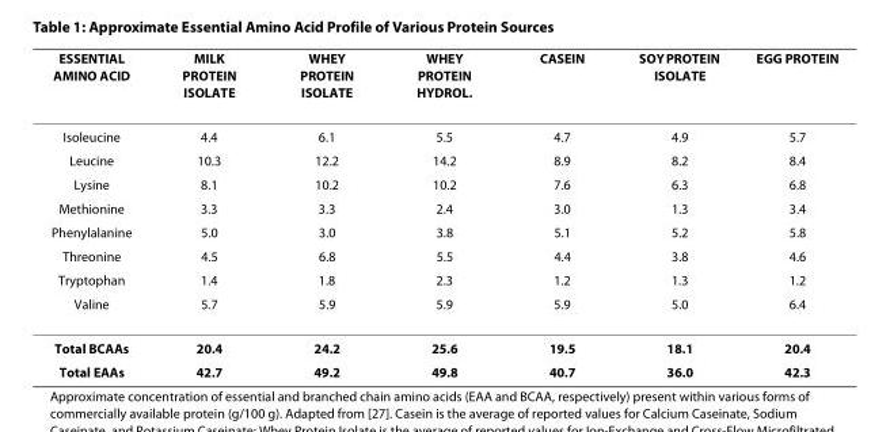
<table><thead><tr><td>ESSENTIAL AMINO ACID</td><td>MILK PROTEIN ISOLATE</td><td>WHEY PROTEIN ISOLATE</td><td>WHEY PROTEIN HYDROL.</td><td>CASEIN</td><td>SOY PROTEIN ISOLATE</td><td>EGG PROTEIN</td></tr></thead><tbody><tr><td>Isoleucine</td><td>4.4</td><td>6.1</td><td>5.5</td><td>4.7</td><td>4.9</td><td>5.7</td></tr><tr><td>Leucine</td><td>10.3</td><td>12.2</td><td>14.2</td><td>8.9</td><td>8.2</td><td>8.4</td></tr><tr><td>Lysine</td><td>8.1</td><td>10.2</td><td>10.2</td><td>7.6</td><td>6.3</td><td>6.8</td></tr><tr><td>Methionine</td><td>3.3</td><td>3.3</td><td>2.4</td><td>3.0</td><td>1.3</td><td>3.4</td></tr><tr><td>Phenylalanine</td><td>5.0</td><td>3.0</td><td>3.8</td><td>5.1</td><td>5.2</td><td>5.8</td></tr><tr><td>Threonine</td><td>4.5</td><td>6.8</td><td>5.5</td><td>4.4</td><td>3.8</td><td>4.6</td></tr><tr><td>Tryptophan</td><td>1.4</td><td>1.8</td><td>2.3</td><td>1.2</td><td>1.3</td><td>1.2</td></tr><tr><td>Valine</td><td>5.7</td><td>5.9</td><td>5.9</td><td>5.9</td><td>5.0</td><td>6.4</td></tr><tr><td>Total BCAAs</td><td>20.4</td><td>24.2</td><td>25.6</td><td>19.5</td><td>18.1</td><td>20.4</td></tr><tr><td>Total EAAs</td><td>42.7</td><td>49.2</td><td>49.8</td><td>40.7</td><td>36.0</td><td>42.3</td></tr></tbody></table>